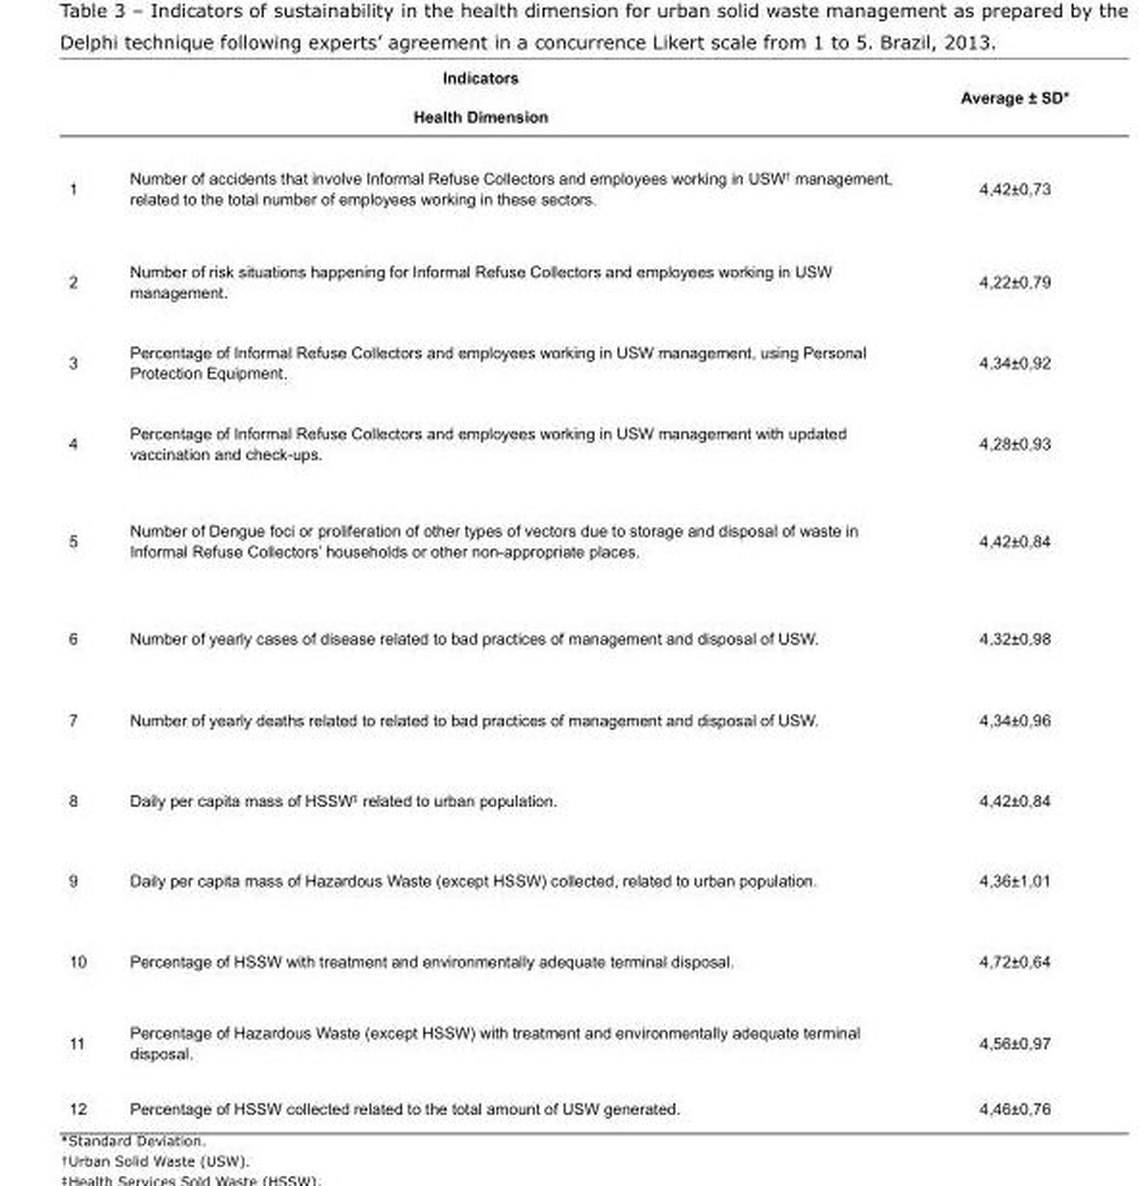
<table><tbody><tr><td colspan="2">Indicators</td><td>Average ± SD*</td></tr><tr><td colspan="3">Health Dimension</td></tr><tr><td>1</td><td>Number of accidents that involve Informal Refuse Collectors and employees working in USW<sup>†</sup> management, related to the total number of employees working in these sectors.</td><td>4,42±0,73</td></tr><tr><td>2</td><td>Number of risk situations happening for Informal Refuse Collectors and employees working in USW management.</td><td>4,22±0,79</td></tr><tr><td>3</td><td>Percentage of Informal Refuse Collectors and employees working in USW management, using Personal Protection Equipment.</td><td>4,34±0,92</td></tr><tr><td>4</td><td>Percentage of Informal Refuse Collectors and employees working in USW management with updated vaccination and check-ups.</td><td>4,28±0,93</td></tr><tr><td>5</td><td>Number of Dengue foci or proliferation of other types of vectors due to storage and disposal of waste in Informal Refuse Collectors’ households or other non-appropriate places.</td><td>4,42±0,84</td></tr><tr><td>6</td><td>Number of yearly cases of disease related to bad practices of management and disposal of USW.</td><td>4,32±0,98</td></tr><tr><td>7</td><td>Number of yearly deaths related to related to bad practices of management and disposal of USW.</td><td>4,34±0,96</td></tr><tr><td>8</td><td>Daily per capita mass of HSSW<sup>‡</sup> related to urban population.</td><td>4,42±0,84</td></tr><tr><td>9</td><td>Daily per capita mass of Hazardous Waste (except HSSW) collected, related to urban population.</td><td>4,36±1,01</td></tr><tr><td>10</td><td>Percentage of HSSW with treatment and environmentally adequate terminal disposal.</td><td>4,72±0,64</td></tr><tr><td>11</td><td>Percentage of Hazardous Waste (except HSSW) with treatment and environmentally adequate terminal disposal.</td><td>4,56±0,97</td></tr><tr><td>12</td><td>Percentage of HSSW collected related to the total amount of USW generated.</td><td>4,46±0,76</td></tr></tbody></table>